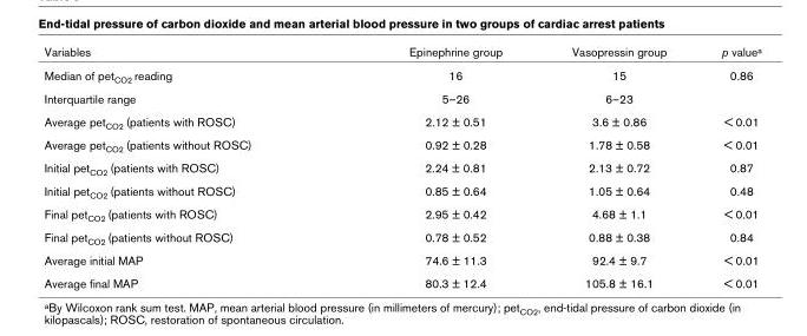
<table><thead><tr><td>Variables</td><td>Epinephrine group</td><td>Vasopressin group</td><td>p value<sup>a</sup></td></tr></thead><tbody><tr><td>Median of pet<sub>CO2</sub> reading</td><td>16</td><td>15</td><td>0.86</td></tr><tr><td>Interquartile range</td><td>5–26</td><td>6–23</td><td></td></tr><tr><td>Average pet<sub>CO2</sub> (patients with ROSC)</td><td>2.12 ± 0.51</td><td>3.6 ± 0.86</td><td>&lt; 0.01</td></tr><tr><td>Average pet<sub>CO2</sub> (patients without ROSC)</td><td>0.92 ± 0.28</td><td>1.78 ± 0.58</td><td>&lt; 0.01</td></tr><tr><td>Initial pet<sub>CO2</sub> (patients with ROSC)</td><td>2.24 ± 0.81</td><td>2.13 ± 0.72</td><td>0.87</td></tr><tr><td>Initial pet<sub>CO2</sub> (patients without ROSC)</td><td>0.85 ± 0.64</td><td>1.05 ± 0.64</td><td>0.48</td></tr><tr><td>Final pet<sub>CO2</sub> (patients with ROSC)</td><td>2.95 ± 0.42</td><td>4.68 ± 1.1</td><td>&lt; 0.01</td></tr><tr><td>Final pet<sub>CO2</sub> (patients without ROSC)</td><td>0.78 ± 0.52</td><td>0.88 ± 0.38</td><td>0.84</td></tr><tr><td>Average initial MAP</td><td>74.6 ± 11.3</td><td>92.4 ± 9.7</td><td>&lt; 0.01</td></tr><tr><td>Average final MAP</td><td>80.3 ± 12.4</td><td>105.8 ± 16.1</td><td>&lt; 0.01</td></tr></tbody></table>